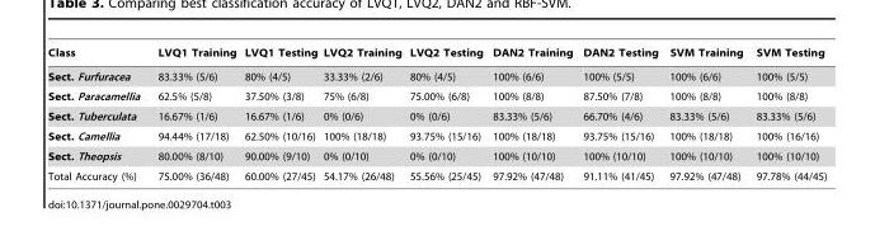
<table><thead><tr><td>Class</td><td>LVQ1 Training</td><td>LVQ1 Testing</td><td>LVQ2 Training</td><td>LVQ2 Testing</td><td>DAN2 Training</td><td>DAN2 Testing</td><td>SVM Training</td><td>SVM Testing</td></tr></thead><tbody><tr><td>Sect. Furfuracea</td><td>83.33% (5/6)</td><td>80% (4/5)</td><td>33.33% (2/6)</td><td>80% (4/5)</td><td>100% (6/6)</td><td>100% (5/5)</td><td>100% (6/6)</td><td>100% (5/5)</td></tr><tr><td>Sect. Paracamellia</td><td>62.5% (5/8)</td><td>37.50% (3/8)</td><td>75% (6/8)</td><td>75.00% (6/8)</td><td>100% (8/8)</td><td>87.50% (7/8)</td><td>100% (8/8)</td><td>100% (8/8)</td></tr><tr><td>Sect. Tuberculata</td><td>16.67% (1/6)</td><td>16.67% (1/6)</td><td>0% (0/6)</td><td>0% (0/6)</td><td>83.33% (5/6)</td><td>66.70% (4/6)</td><td>83.33% (5/6)</td><td>83.33% (5/6)</td></tr><tr><td>Sect. Camellia</td><td>94.44% (17/18)</td><td>62.50% (10/16)</td><td>100% (18/18)</td><td>93.75% (15/16)</td><td>100% (18/18)</td><td>93.75% (15/16)</td><td>100% (18/18)</td><td>100% (16/16)</td></tr><tr><td>Sect. Theopsis</td><td>80.00% (8/10)</td><td>90.00% (9/10)</td><td>0% (0/10)</td><td>0% (0/10)</td><td>100% (10/10)</td><td>100% (10/10)</td><td>100% (10/10)</td><td>100% (10/10)</td></tr><tr><td>Total Accuracy (%)</td><td>75.00% (36/48)</td><td>60.00% (27/45)</td><td>54.17% (26/48)</td><td>55.56% (25/45)</td><td>97.92% (47/48)</td><td>91.11% (41/45)</td><td>97.92% (47/48)</td><td>97.78% (44/45)</td></tr></tbody></table>